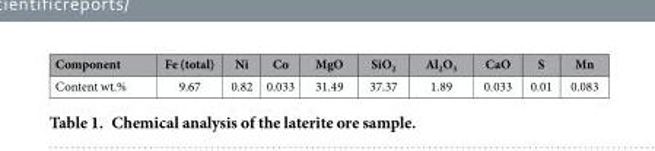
<table><thead><tr><td>Component</td><td>Fe (total)</td><td>Ni</td><td>Co</td><td>MgO</td><td>SiO<sub>2</sub></td><td>Al<sub>2</sub>O<sub>3</sub></td><td>CaO</td><td>S</td><td>Mn</td></tr></thead><tbody><tr><td>Content wt.%</td><td>9.67</td><td>0.82</td><td>0.033</td><td>31.49</td><td>37.37</td><td>1.89</td><td>0.033</td><td>0.01</td><td>0.083</td></tr></tbody></table>